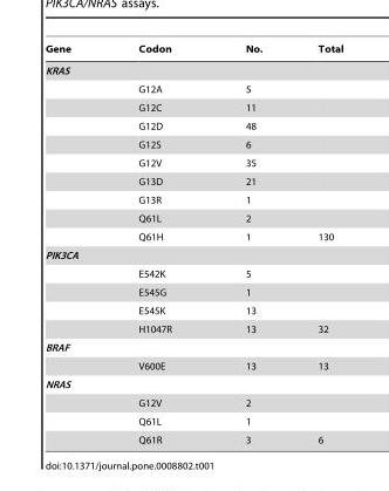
<table><thead><tr><td>Gene</td><td>Codon</td><td>No.</td><td>Total</td></tr></thead><tbody><tr><td colspan="4">KRAS</td></tr><tr><td></td><td>G12A</td><td>5</td><td></td></tr><tr><td></td><td>G12C</td><td>11</td><td></td></tr><tr><td></td><td>G12D</td><td>48</td><td></td></tr><tr><td></td><td>G12S</td><td>6</td><td></td></tr><tr><td></td><td>G12V</td><td>35</td><td></td></tr><tr><td></td><td>G13D</td><td>21</td><td></td></tr><tr><td></td><td>G13R</td><td>1</td><td></td></tr><tr><td></td><td>Q61L</td><td>2</td><td></td></tr><tr><td></td><td>Q61H</td><td>1</td><td>130</td></tr><tr><td colspan="4">PIK3CA</td></tr><tr><td></td><td>E542K</td><td>5</td><td></td></tr><tr><td></td><td>E545G</td><td>1</td><td></td></tr><tr><td></td><td>E545K</td><td>13</td><td></td></tr><tr><td></td><td>H1047R</td><td>13</td><td>32</td></tr><tr><td colspan="4">BRAF</td></tr><tr><td></td><td>V600E</td><td>13</td><td>13</td></tr><tr><td colspan="4">NRAS</td></tr><tr><td></td><td>G12V</td><td>2</td><td></td></tr><tr><td></td><td>Q61L</td><td>1</td><td></td></tr><tr><td></td><td>Q61R</td><td>3</td><td>6</td></tr></tbody></table>